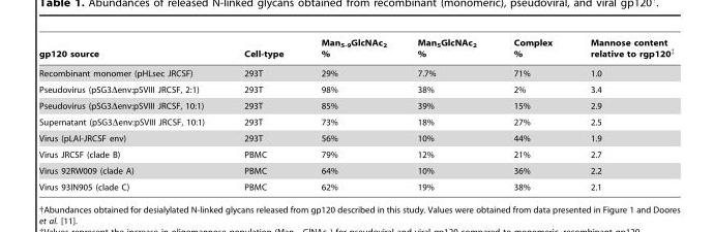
<table><thead><tr><td>gp120 source</td><td>Cell-type</td><td>Man<sub>5-9</sub>GlcNAc<sub>2</sub> %</td><td>Man<sub>5</sub>GlcNAc<sub>2</sub> %</td><td>Complex %</td><td>Mannose content relative to rgp120‡</td></tr></thead><tbody><tr><td>Recombinant monomer (pHLsec JRCSF)</td><td>293T</td><td>29%</td><td>7.7%</td><td>71%</td><td>1.0</td></tr><tr><td>Pseudovirus (pSG3Δenv:pSVIII JRCSF, 2:1)</td><td>293T</td><td>98%</td><td>38%</td><td>2%</td><td>3.4</td></tr><tr><td>Pseudovirus (pSG3Δenv:pSVIII JRCSF, 10:1)</td><td>293T</td><td>85%</td><td>39%</td><td>15%</td><td>2.9</td></tr><tr><td>Supernatant (pSG3Δenv:pSVIII JRCSF, 10:1)</td><td>293T</td><td>73%</td><td>18%</td><td>27%</td><td>2.5</td></tr><tr><td>Virus (pLAI-JRCSF env)</td><td>293T</td><td>56%</td><td>10%</td><td>44%</td><td>1.9</td></tr><tr><td>Virus JRCSF (clade B)</td><td>PBMC</td><td>79%</td><td>12%</td><td>21%</td><td>2.7</td></tr><tr><td>Virus 92RW009 (clade A)</td><td>PBMC</td><td>64%</td><td>10%</td><td>36%</td><td>2.2</td></tr><tr><td>Virus 93IN905 (clade C)</td><td>PBMC</td><td>62%</td><td>19%</td><td>38%</td><td>2.1</td></tr></tbody></table>